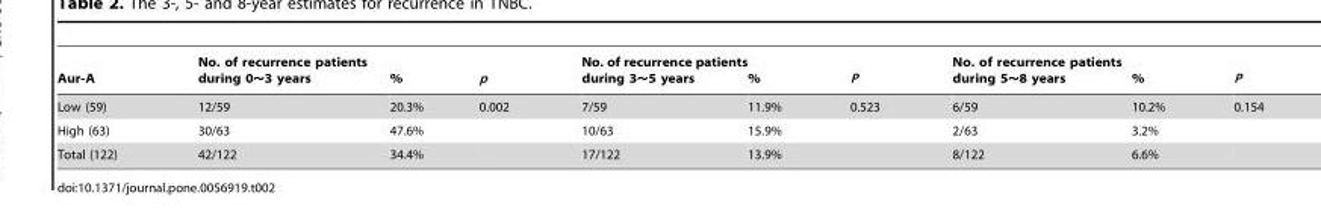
<table><thead><tr><td>Aur-A</td><td>No. of recurrence patients during 0∼3 years</td><td>%</td><td>p</td><td>No. of recurrence patients during 3∼5 years</td><td>%</td><td>P</td><td>No. of recurrence patients during 5∼8 years</td><td>%</td><td>P</td></tr></thead><tbody><tr><td>Low (59)</td><td>12/59</td><td>20.3%</td><td>0.002</td><td>7/59</td><td>11.9%</td><td>0.523</td><td>6/59</td><td>10.2%</td><td>0.154</td></tr><tr><td>High (63)</td><td>30/63</td><td>47.6%</td><td></td><td>10/63</td><td>15.9%</td><td></td><td>2/63</td><td>3.2%</td><td></td></tr><tr><td>Total (122)</td><td>42/122</td><td>34.4%</td><td></td><td>17/122</td><td>13.9%</td><td></td><td>8/122</td><td>6.6%</td><td></td></tr></tbody></table>